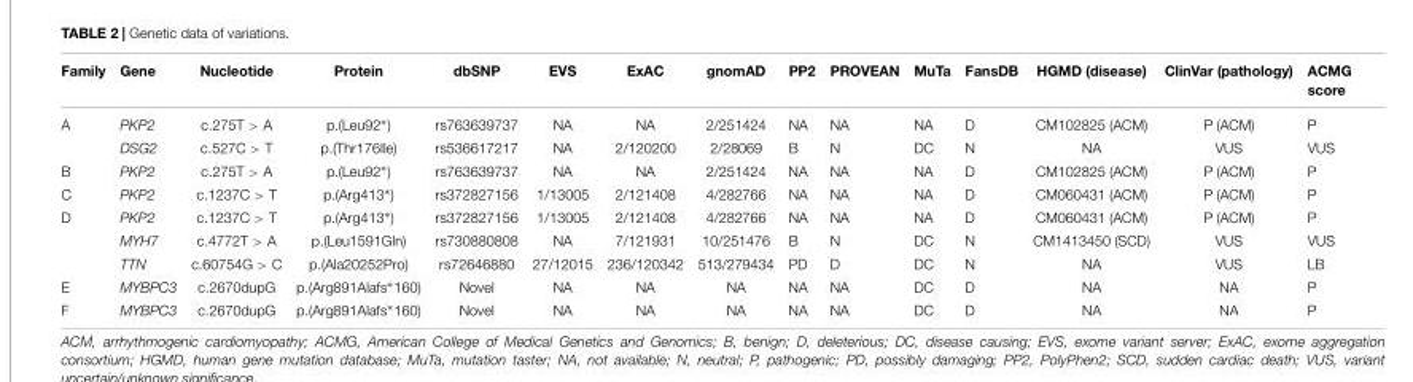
<table><thead><tr><td>Family</td><td>Gene</td><td>Nucleotide</td><td>Protein</td><td>dbSNP</td><td>EVS</td><td>ExAC</td><td>gnomAD</td><td>PP2</td><td>PROVEAN</td><td>MuTa</td><td>FansDB</td><td>HGMD (disease)</td><td>ClinVar (pathology)</td><td>ACMG score</td></tr></thead><tbody><tr><td rowspan="2">A</td><td>PKP2</td><td>c.275T &gt; A</td><td>p.(Leu92∗)</td><td>rs763639737</td><td>NA</td><td>NA</td><td>2/251424</td><td>NA</td><td>NA</td><td>NA</td><td>D</td><td>CM102825 (ACM)</td><td>P (ACM)</td><td>P</td></tr><tr><td>DSG2</td><td>c.527C &gt; T</td><td>p.(Thr176Ile)</td><td>rs536617217</td><td>NA</td><td>2/120200</td><td>2/28069</td><td>B</td><td>N</td><td>DC</td><td>N</td><td>NA</td><td>VUS</td><td>VUS</td></tr><tr><td>B</td><td>PKP2</td><td>c.275T &gt; A</td><td>p.(Leu92∗)</td><td>rs763639737</td><td>NA</td><td>NA</td><td>2/251424</td><td>NA</td><td>NA</td><td>NA</td><td>D</td><td>CM102825 (ACM)</td><td>P (ACM)</td><td>P</td></tr><tr><td>C</td><td>PKP2</td><td>c.1237C &gt; T</td><td>p.(Arg413∗)</td><td>rs372827156</td><td>1/13005</td><td>2/121408</td><td>4/282766</td><td>NA</td><td>NA</td><td>NA</td><td>D</td><td>CM060431 (ACM)</td><td>P (ACM)</td><td>P</td></tr><tr><td rowspan="3">D</td><td>PKP2</td><td>c.1237C &gt; T</td><td>p.(Arg413∗)</td><td>rs372827156</td><td>1/13005</td><td>2/121408</td><td>4/282766</td><td>NA</td><td>NA</td><td>NA</td><td>D</td><td>CM060431 (ACM)</td><td>P (ACM)</td><td>P</td></tr><tr><td>MYH7</td><td>c.4772T &gt; A</td><td>p.(Leu1591Gln)</td><td>rs730880808</td><td>NA</td><td>7/121931</td><td>10/251476</td><td>B</td><td>N</td><td>DC</td><td>N</td><td>CM1413450 (SCD)</td><td>VUS</td><td>VUS</td></tr><tr><td>TTN</td><td>c.60754G &gt; C</td><td>p.(Ala20252Pro)</td><td>rs72646880</td><td>27/12015</td><td>236/120342</td><td>513/279434</td><td>PD</td><td>D</td><td>DC</td><td>N</td><td>NA</td><td>VUS</td><td>LB</td></tr><tr><td>E</td><td>MYBPC3</td><td>c.2670dupG</td><td>p.(Arg891Alafs∗160)</td><td>Novel</td><td>NA</td><td>NA</td><td>NA</td><td>NA</td><td>NA</td><td>DC</td><td>D</td><td>NA</td><td>NA</td><td>P</td></tr><tr><td>F</td><td>MYBPC3</td><td>c.2670dupG</td><td>p.(Arg891Alafs∗160)</td><td>Novel</td><td>NA</td><td>NA</td><td>NA</td><td>NA</td><td>NA</td><td>DC</td><td>D</td><td>NA</td><td>NA</td><td>P</td></tr></tbody></table>